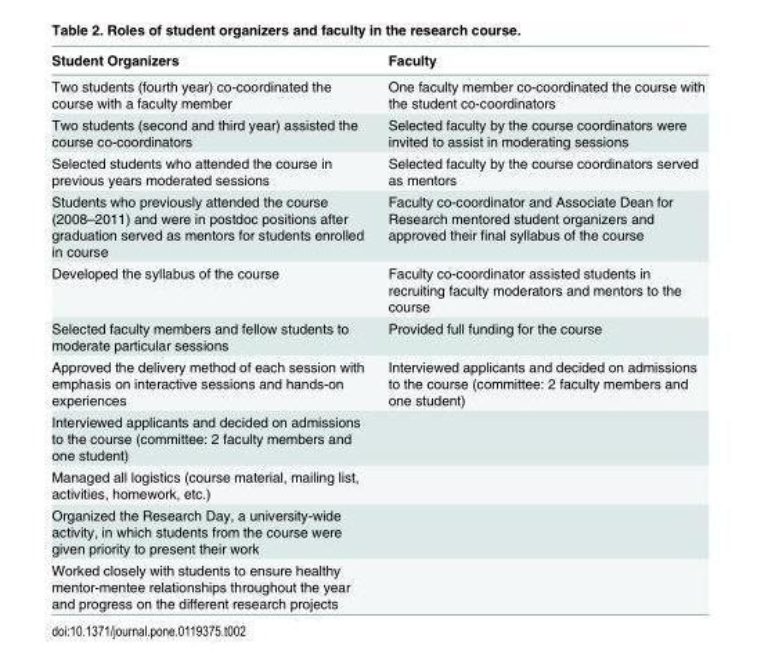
<table><thead><tr><td>Student Organizers</td><td>Faculty</td></tr></thead><tbody><tr><td>Two students (fourth year) co-coordinated the course with a faculty member</td><td>One faculty member co-coordinated the course with the student co-coordinators</td></tr><tr><td>Two students (second and third year) assisted the course co-coordinators</td><td>Selected faculty by the course coordinators were invited to assist in moderating sessions</td></tr><tr><td>Selected students who attended the course in previous years moderated sessions</td><td>Selected faculty by the course coordinators served as mentors</td></tr><tr><td>Students who previously attended the course (2008–2011) and were in postdoc positions after graduation served as mentors for students enrolled in course</td><td>Faculty co-coordinator and Associate Dean for Research mentored student organizers and approved their final syllabus of the course</td></tr><tr><td>Developed the syllabus of the course</td><td>Faculty co-coordinator assisted students in recruiting faculty moderators and mentors to the course</td></tr><tr><td>Selected faculty members and fellow students to moderate particular sessions</td><td>Provided full funding for the course</td></tr><tr><td>Approved the delivery method of each session with emphasis on interactive sessions and hands-on experiences</td><td>Interviewed applicants and decided on admissions to the course (committee: 2 faculty members and one student)</td></tr><tr><td colspan="2">Interviewed applicants and decided on admissions to the course (committee: 2 faculty members and one student)</td></tr><tr><td colspan="2">Managed all logistics (course material, mailing list, activities, homework, etc.)</td></tr><tr><td colspan="2">Organized the Research Day, a university-wide activity, in which students from the course were given priority to present their work</td></tr><tr><td>Worked closely with students to ensure healthy mentor-mentee relationships throughout the year and progress on the different research projects</td><td></td></tr></tbody></table>